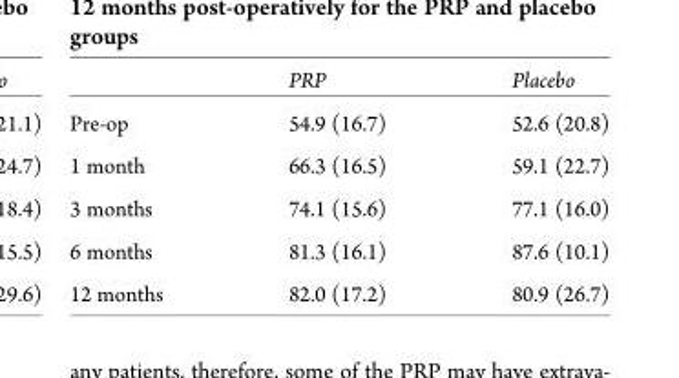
<table><thead><tr><td></td><td>PRP</td><td>Placebo</td></tr></thead><tbody><tr><td>Pre-op</td><td>54.9 (16.7)</td><td>52.6 (20.8)</td></tr><tr><td>1 month</td><td>66.3 (16.5)</td><td>59.1 (22.7)</td></tr><tr><td>3 months</td><td>74.1 (15.6)</td><td>77.1 (16.0)</td></tr><tr><td>6 months</td><td>81.3 (16.1)</td><td>87.6 (10.1)</td></tr><tr><td>12 months</td><td>82.0 (17.2)</td><td>80.9 (26.7)</td></tr></tbody></table>